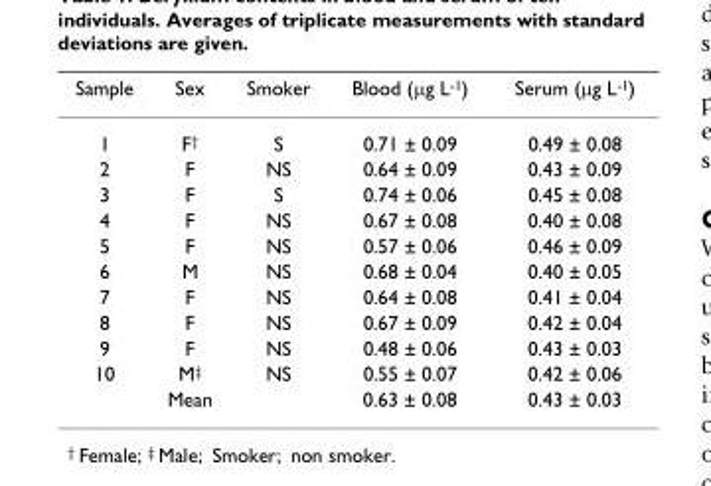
<table><thead><tr><td>Sample</td><td>Sex</td><td>Smoker</td><td>Blood (μg L<sup>-1</sup>)</td><td>Serum (μg L<sup>-1</sup>)</td></tr></thead><tbody><tr><td>1</td><td>F<sup>†</sup></td><td>S</td><td>0.71 ± 0.09</td><td>0.49 ± 0.08</td></tr><tr><td>2</td><td>F</td><td>NS</td><td>0.64 ± 0.09</td><td>0.43 ± 0.09</td></tr><tr><td>3</td><td>F</td><td>S</td><td>0.74 ± 0.06</td><td>0.45 ± 0.08</td></tr><tr><td>4</td><td>F</td><td>NS</td><td>0.67 ± 0.08</td><td>0.40 ± 0.08</td></tr><tr><td>5</td><td>F</td><td>NS</td><td>0.57 ± 0.06</td><td>0.46 ± 0.09</td></tr><tr><td>6</td><td>M</td><td>NS</td><td>0.68 ± 0.04</td><td>0.40 ± 0.05</td></tr><tr><td>7</td><td>F</td><td>NS</td><td>0.64 ± 0.08</td><td>0.41 ± 0.04</td></tr><tr><td>8</td><td>F</td><td>NS</td><td>0.67 ± 0.09</td><td>0.42 ± 0.04</td></tr><tr><td>9</td><td>F</td><td>NS</td><td>0.48 ± 0.06</td><td>0.43 ± 0.03</td></tr><tr><td rowspan="2">10</td><td>M<sup>‡</sup></td><td>NS</td><td>0.55 ± 0.07</td><td>0.42 ± 0.06</td></tr><tr><td>Mean</td><td></td><td>0.63 ± 0.08</td><td>0.43 ± 0.03</td></tr></tbody></table>